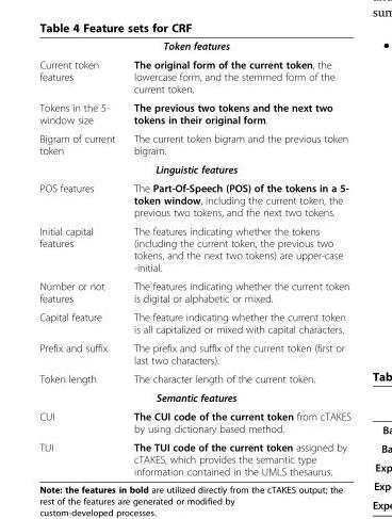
<table><tbody><tr><td colspan="2">Token features</td></tr><tr><td>Current token features</td><td>The original form of the current token, the lowercase form, and the stemmed form of the current token.</td></tr><tr><td>Tokens in the 5- window size</td><td>The previous two tokens and the next two tokens in their original form.</td></tr><tr><td>Bigram of current token</td><td>The current token bigram and the previous token bigram.</td></tr><tr><td colspan="2">Linguistic features</td></tr><tr><td>POS features</td><td>The Part-Of-Speech (POS) of the tokens in a 5- token window, including the current token, the previous two tokens, and the next two tokens.</td></tr><tr><td>Initial capital features</td><td>The features indicating whether the tokens (including the current token, the previous two tokens, and the next two tokens) are upper-case -initial.</td></tr><tr><td>Number or not features</td><td>The features indicating whether the current token is digital or alphabetic or mixed.</td></tr><tr><td>Capital feature</td><td>The feature indicating whether the current token is all capitalized or mixed with capital characters.</td></tr><tr><td>Prefix and suffix</td><td>The prefix and suffix of the current token (first or last two characters).</td></tr><tr><td>Token length</td><td>The character length of the current token.</td></tr><tr><td colspan="2">Semantic features</td></tr><tr><td>CUI</td><td>The CUI code of the current token from cTAKES by using dictionary based method.</td></tr><tr><td>TUI</td><td>The TUI code of the current token assigned by cTAKES, which provides the semantic type information contained in the UMLS thesaurus.</td></tr></tbody></table>